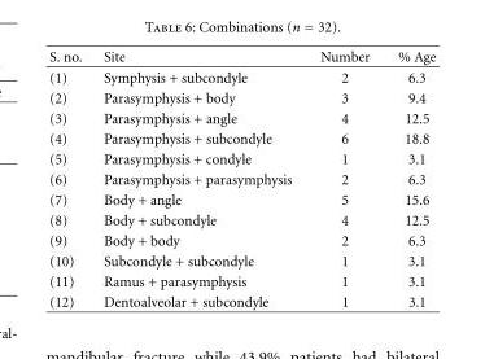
<table><thead><tr><td>S. no.</td><td>Site</td><td>Number</td><td>% Age</td></tr></thead><tbody><tr><td>(1)</td><td>Symphysis + subcondyle</td><td>2</td><td>6.3</td></tr><tr><td>(2)</td><td>Parasymphysis + body</td><td>3</td><td>9.4</td></tr><tr><td>(3)</td><td>Parasymphysis + angle</td><td>4</td><td>12.5</td></tr><tr><td>(4)</td><td>Parasymphysis + subcondyle</td><td>6</td><td>18.8</td></tr><tr><td>(5)</td><td>Parasymphysis + condyle</td><td>1</td><td>3.1</td></tr><tr><td>(6)</td><td>Parasymphysis + parasymphysis</td><td>2</td><td>6.3</td></tr><tr><td>(7)</td><td>Body + angle</td><td>5</td><td>15.6</td></tr><tr><td>(8)</td><td>Body + subcondyle</td><td>4</td><td>12.5</td></tr><tr><td>(9)</td><td>Body + body</td><td>2</td><td>6.3</td></tr><tr><td>(10)</td><td>Subcondyle + subcondyle</td><td>1</td><td>3.1</td></tr><tr><td>(11)</td><td>Ramus + parasymphysis</td><td>1</td><td>3.1</td></tr><tr><td>(12)</td><td>Dentoalveolar + subcondyle</td><td>1</td><td>3.1</td></tr></tbody></table>